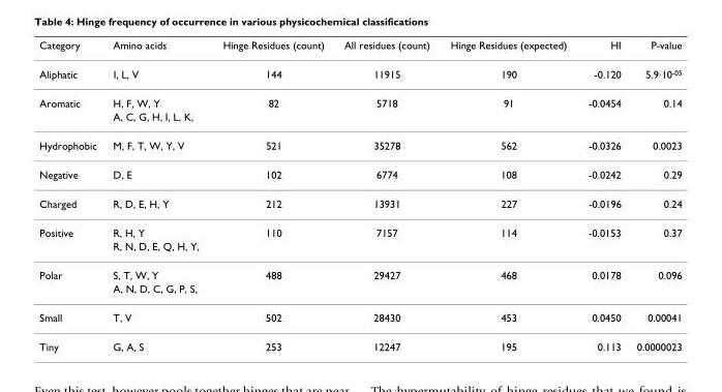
<table><thead><tr><td>Category</td><td>Amino acids</td><td>Hinge Residues (count)</td><td>All residues (count)</td><td>Hinge Residues (expected)</td><td>HI</td><td>P-value</td></tr></thead><tbody><tr><td>Aliphatic</td><td>I, L, V</td><td>144</td><td>11915</td><td>190</td><td>-0.120</td><td>5.9·10<sup>-05</sup></td></tr><tr><td rowspan="2">Aromatic</td><td>H, F, W, Y</td><td>82</td><td>5718</td><td>91</td><td>-0.0454</td><td>0.14</td></tr><tr><td>A, C, G, H, I, L, K,</td><td></td><td></td><td></td><td></td><td></td></tr><tr><td>Hydrophobic</td><td>M, F, T, W, Y, V</td><td>521</td><td>35278</td><td>562</td><td>-0.0326</td><td>0.0023</td></tr><tr><td>Negative</td><td>D, E</td><td>102</td><td>6774</td><td>108</td><td>-0.0242</td><td>0.29</td></tr><tr><td>Charged</td><td>R, D, E, H, Y</td><td>212</td><td>13931</td><td>227</td><td>-0.0196</td><td>0.24</td></tr><tr><td rowspan="2">Positive</td><td>R, H, Y</td><td>110</td><td>7157</td><td>114</td><td>-0.0153</td><td>0.37</td></tr><tr><td>R, N, D, E, Q, H, Y,</td><td></td><td></td><td></td><td></td><td></td></tr><tr><td rowspan="2">Polar</td><td>S, T, W, Y</td><td>488</td><td>29427</td><td>468</td><td>0.0178</td><td>0.096</td></tr><tr><td>A, N, D, C, G, P, S,</td><td></td><td></td><td></td><td></td><td></td></tr><tr><td>Small</td><td>T, V</td><td>502</td><td>28430</td><td>453</td><td>0.0450</td><td>0.00041</td></tr><tr><td>Tiny</td><td>G, A, S</td><td>253</td><td>12247</td><td>195</td><td>0.113</td><td>0.0000023</td></tr></tbody></table>